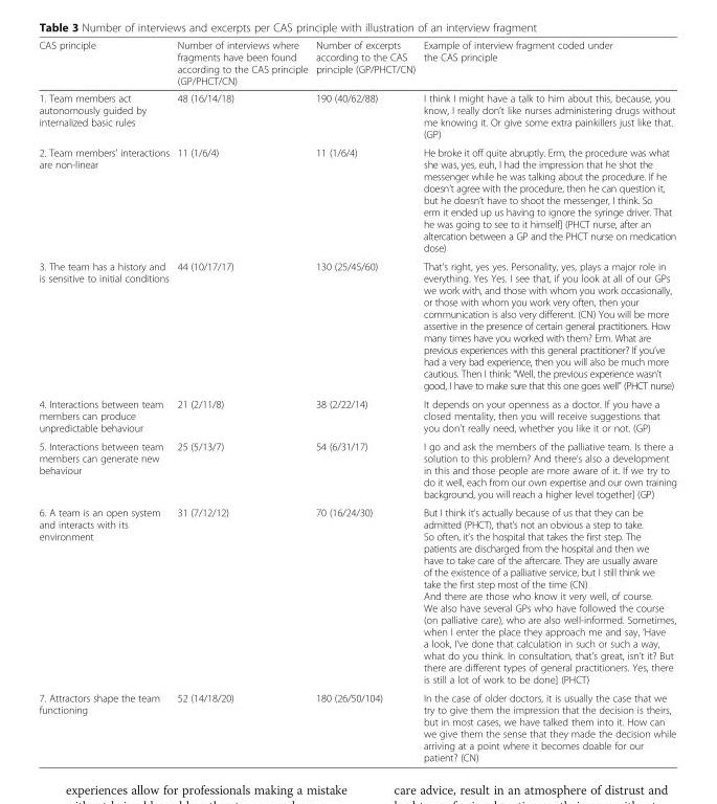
<table><thead><tr><td>CAS principle</td><td>Number of interviews where fragments have been found according to the CAS principle (GP/PHCT/CN)</td><td>Number of excerpts according to the CAS principle (GP/PHCT/CN)</td><td>Example of interview fragment coded under the CAS principle</td></tr></thead><tbody><tr><td>1. Team members act autonomously guided by internalized basic rules</td><td>48 (16/14/18)</td><td>190 (40/62/88)</td><td>I think I might have a talk to him about this, because, you know, I really don’t like nurses administering drugs without me knowing it. Or give some extra painkillers just like that. (GP)</td></tr><tr><td>2. Team members’ interactions are non-linear</td><td>11 (1/6/4)</td><td>11 (1/6/4)</td><td>He broke it off quite abruptly. Erm, the procedure was what she was, yes, euh, I had the impression that he shot the messenger while he was talking about the procedure. If he doesn’t agree with the procedure, then he can question it, but he doesn’t have to shoot the messenger, I think. So erm it ended up us having to ignore the syringe driver. That he was going to see to it himself] (PHCT nurse, after an altercation between a GP and the PHCT nurse on medication dose)</td></tr><tr><td>3. The team has a history and is sensitive to initial conditions</td><td>44 (10/17/17)</td><td>130 (25/45/60)</td><td>That’s right, yes yes. Personality, yes, plays a major role in everything. Yes Yes. I see that, if you look at all of our GPs we work with, and those with whom you work occasionally, or those with whom you work very often, then your communication is also very different. (CN) You will be more assertive in the presence of certain general practitioners. How many times have you worked with them? Erm. What are previous experiences with this general practitioner? If you’ve had a very bad experience, then you will also be much more cautious. Then I think: “Well, the previous experience wasn’t good, I have to make sure that this one goes well” (PHCT nurse)</td></tr><tr><td>4. Interactions between team members can produce unpredictable behaviour</td><td>21 (2/11/8)</td><td>38 (2/22/14)</td><td>It depends on your openness as a doctor. If you have a closed mentality, then you will receive suggestions that you don’t really need, whether you like it or not. (GP)</td></tr><tr><td>5. Interactions between team members can generate new behaviour</td><td>25 (5/13/7)</td><td>54 (6/31/17)</td><td>I go and ask the members of the palliative team. Is there a solution to this problem? And there’s also a development in this and those people are more aware of it. If we try to do it well, each from our own expertise and our own training background, you will reach a higher level together] (GP)</td></tr><tr><td>6. A team is an open system and interacts with its environment</td><td>31 (7/12/12)</td><td>70 (16/24/30)</td><td>But I think it’s actually because of us that they can be admitted (PHCT), that’s not an obvious a step to take. So often, it’s the hospital that takes the first step. The patients are discharged from the hospital and then we have to take care of the aftercare. They are usually aware of the existence of a palliative service, but I still think we take the first step most of the time (CN) And there are those who know it very well, of course. We also have several GPs who have followed the course (on palliative care), who are also well-informed. Sometimes, when I enter the place they approach me and say, ‘Have a look, I’ve done that calculation in such or such a way, what do you think. In consultation, that’s great, isn’t it? But there are different types of general practitioners. Yes, there is still a lot of work to be done] (PHCT)</td></tr><tr><td>7. Attractors shape the team functioning</td><td>52 (14/18/20)</td><td>180 (26/50/104)</td><td>In the case of older doctors, it is usually the case that we try to give them the impression that the decision is theirs, but in most cases, we have talked them into it. How can we give them the sense that they made the decision while arriving at a point where it becomes doable for our patient? (CN)</td></tr></tbody></table>